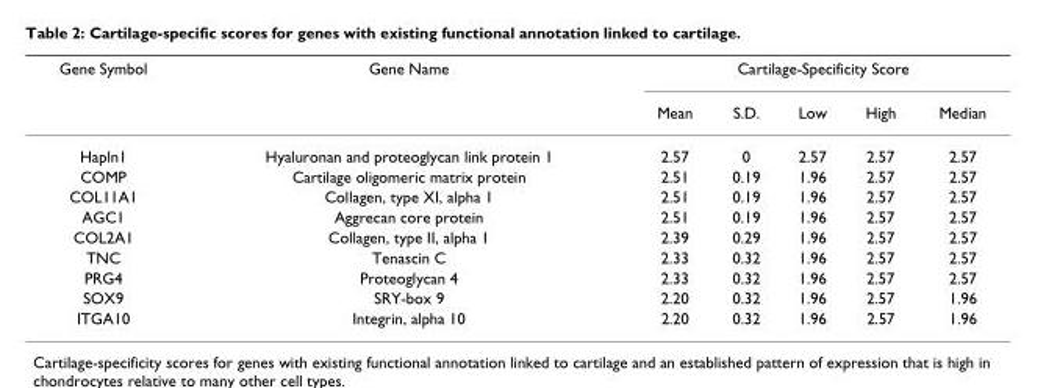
<table><thead><tr><td rowspan="2">Gene Symbol</td><td rowspan="2">Gene Name</td><td colspan="5">Cartilage-Specificity Score</td></tr><tr><td>Mean</td><td>S.D.</td><td>Low</td><td>High</td><td>Median</td></tr></thead><tbody><tr><td>Hapln1</td><td>Hyaluronan and proteoglycan link protein 1</td><td>2.57</td><td>0</td><td>2.57</td><td>2.57</td><td>2.57</td></tr><tr><td>COMP</td><td>Cartilage oligomeric matrix protein</td><td>2.51</td><td>0.19</td><td>1.96</td><td>2.57</td><td>2.57</td></tr><tr><td>COL11A1</td><td>Collagen, type XI, alpha 1</td><td>2.51</td><td>0.19</td><td>1.96</td><td>2.57</td><td>2.57</td></tr><tr><td>AGC1</td><td>Aggrecan core protein</td><td>2.51</td><td>0.19</td><td>1.96</td><td>2.57</td><td>2.57</td></tr><tr><td>COL2A1</td><td>Collagen, type II, alpha 1</td><td>2.39</td><td>0.29</td><td>1.96</td><td>2.57</td><td>2.57</td></tr><tr><td>TNC</td><td>Tenascin C</td><td>2.33</td><td>0.32</td><td>1.96</td><td>2.57</td><td>2.57</td></tr><tr><td>PRG4</td><td>Proteoglycan 4</td><td>2.33</td><td>0.32</td><td>1.96</td><td>2.57</td><td>2.57</td></tr><tr><td>SOX9</td><td>SRY-box 9</td><td>2.20</td><td>0.32</td><td>1.96</td><td>2.57</td><td>1.96</td></tr><tr><td>ITGA10</td><td>Integrin, alpha 10</td><td>2.20</td><td>0.32</td><td>1.96</td><td>2.57</td><td>1.96</td></tr></tbody></table>